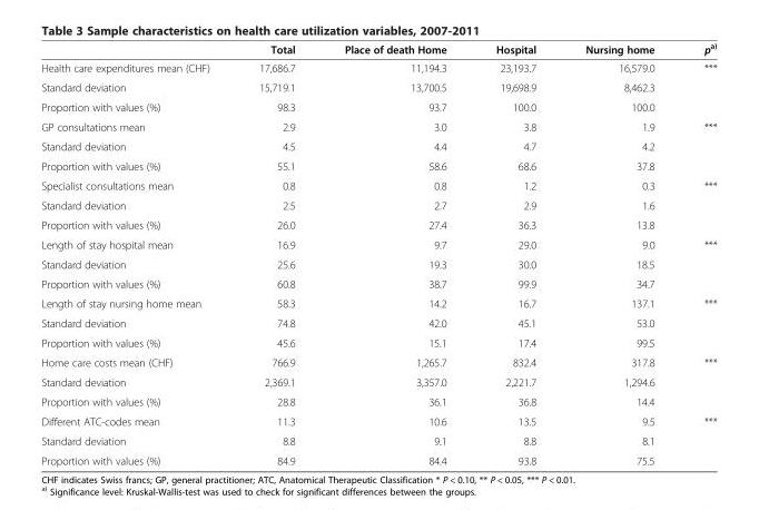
<table><thead><tr><td></td><td>Total</td><td>Place of death Home</td><td>Hospital</td><td>Nursing home</td><td>p<sup>a)</sup></td></tr></thead><tbody><tr><td>Health care expenditures mean (CHF)</td><td>17,686.7</td><td>11,194.3</td><td>23,193.7</td><td>16,579.0</td><td>***</td></tr><tr><td>Standard deviation</td><td>15,719.1</td><td>13,700.5</td><td>19,698.9</td><td>8,462.3</td><td></td></tr><tr><td>Proportion with values (%)</td><td>98.3</td><td>93.7</td><td>100.0</td><td>100.0</td><td></td></tr><tr><td>GP consultations mean</td><td>2.9</td><td>3.0</td><td>3.8</td><td>1.9</td><td>***</td></tr><tr><td>Standard deviation</td><td>4.5</td><td>4.4</td><td>4.7</td><td>4.2</td><td></td></tr><tr><td>Proportion with values (%)</td><td>55.1</td><td>58.6</td><td>68.6</td><td>37.8</td><td></td></tr><tr><td>Specialist consultations mean</td><td>0.8</td><td>0.8</td><td>1.2</td><td>0.3</td><td>***</td></tr><tr><td>Standard deviation</td><td>2.5</td><td>2.7</td><td>2.9</td><td>1.6</td><td></td></tr><tr><td>Proportion with values (%)</td><td>26.0</td><td>27.4</td><td>36.3</td><td>13.8</td><td></td></tr><tr><td>Length of stay hospital mean</td><td>16.9</td><td>9.7</td><td>29.0</td><td>9.0</td><td>***</td></tr><tr><td>Standard deviation</td><td>25.6</td><td>19.3</td><td>30.0</td><td>18.5</td><td></td></tr><tr><td>Proportion with values (%)</td><td>60.8</td><td>38.7</td><td>99.9</td><td>34.7</td><td></td></tr><tr><td>Length of stay nursing home mean</td><td>58.3</td><td>14.2</td><td>16.7</td><td>137.1</td><td>***</td></tr><tr><td>Standard deviation</td><td>74.8</td><td>42.0</td><td>45.1</td><td>53.0</td><td></td></tr><tr><td>Proportion with values (%)</td><td>45.6</td><td>15.1</td><td>17.4</td><td>99.5</td><td></td></tr><tr><td>Home care costs mean (CHF)</td><td>766.9</td><td>1,265.7</td><td>832.4</td><td>317.8</td><td>***</td></tr><tr><td>Standard deviation</td><td>2,369.1</td><td>3,357.0</td><td>2,221.7</td><td>1,294.6</td><td></td></tr><tr><td>Proportion with values (%)</td><td>28.8</td><td>36.1</td><td>36.8</td><td>14.4</td><td></td></tr><tr><td>Different ATC-codes mean</td><td>11.3</td><td>10.6</td><td>13.5</td><td>9.5</td><td>***</td></tr><tr><td>Standard deviation</td><td>8.8</td><td>9.1</td><td>8.8</td><td>8.1</td><td></td></tr><tr><td>Proportion with values (%)</td><td>84.9</td><td>84.4</td><td>93.8</td><td>75.5</td><td></td></tr></tbody></table>